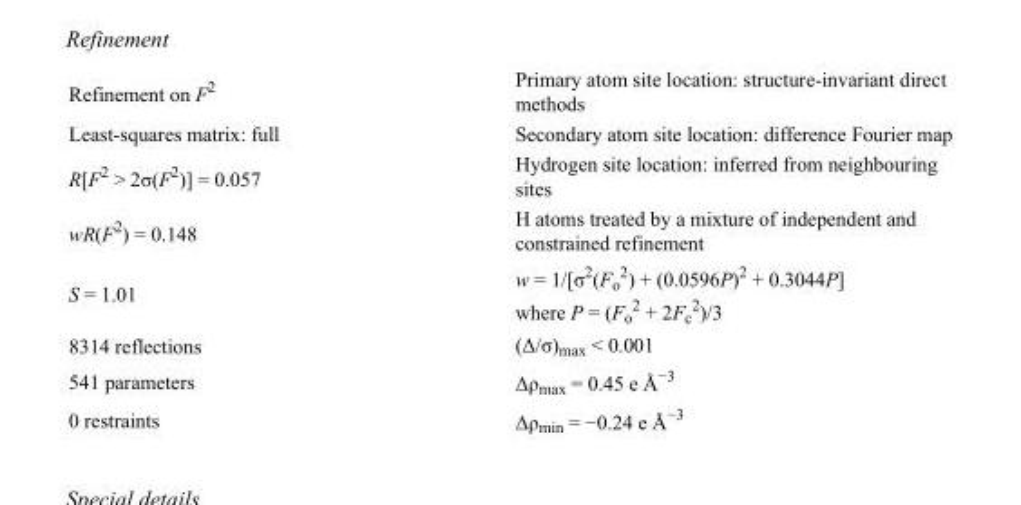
<table><tbody><tr><td>Refinement on F<sup>2</sup></td><td>Primary atom site location: structure-invariant direct methods</td></tr><tr><td>Least-squares matrix: full</td><td>Secondary atom site location: difference Fourier map</td></tr><tr><td>R[F<sup>2</sup> &gt; 2σ(F<sup>2</sup>)] = 0.057</td><td>Hydrogen site location: inferred from neighbouring sites</td></tr><tr><td>wR(F<sup>2</sup>) = 0.148</td><td>H atoms treated by a mixture of independent and constrained refinement</td></tr><tr><td>S = 1.01</td><td>w = 1/[σ<sup>2</sup>(F<sub>o</sub> <sup>2</sup>) + (0.0596P)<sup>2</sup> + 0.3044P] where P = (F<sub>o</sub> <sup>2</sup> + 2F<sub>c</sub> <sup>2</sup>)/3</td></tr><tr><td>8314 reflections</td><td>(Δ/σ)<sub>max</sub> &lt; 0.001</td></tr><tr><td>541 parameters</td><td>Δρ<sub>max</sub> = 0.45 e Å<sup>−3</sup></td></tr><tr><td>0 restraints</td><td>Δρ<sub>min</sub> = −0.24 e Å<sup>−3</sup></td></tr></tbody></table>